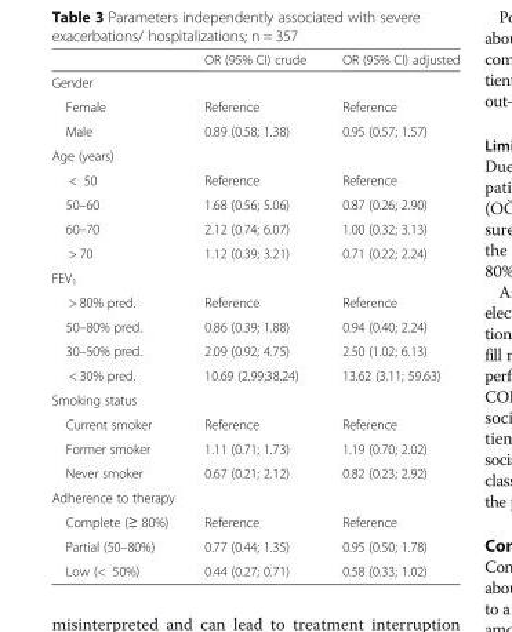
<table><thead><tr><td></td><td>OR (95% CI) crude</td><td>OR (95% CI) adjusted</td></tr></thead><tbody><tr><td colspan="3">Gender</td></tr><tr><td>Female</td><td>Reference</td><td>Reference</td></tr><tr><td>Male</td><td>0.89 (0.58; 1.38)</td><td>0.95 (0.57; 1.57)</td></tr><tr><td colspan="3">Age (years)</td></tr><tr><td>&lt; 50</td><td>Reference</td><td>Reference</td></tr><tr><td>50–60</td><td>1.68 (0.56; 5.06)</td><td>0.87 (0.26; 2.90)</td></tr><tr><td>60–70</td><td>2.12 (0.74; 6.07)</td><td>1.00 (0.32; 3.13)</td></tr><tr><td>&gt; 70</td><td>1.12 (0.39; 3.21)</td><td>0.71 (0.22; 2.24)</td></tr><tr><td colspan="3">FEV<sub>1</sub></td></tr><tr><td>&gt; 80% pred.</td><td>Reference</td><td>Reference</td></tr><tr><td>50–80% pred.</td><td>0.86 (0.39; 1.88)</td><td>0.94 (0.40; 2.24)</td></tr><tr><td>30–50% pred.</td><td>2.09 (0.92; 4.75)</td><td>2.50 (1.02; 6.13)</td></tr><tr><td>&lt; 30% pred.</td><td>10.69 (2.99;38.24)</td><td>13.62 (3.11; 59.63)</td></tr><tr><td colspan="3">Smoking status</td></tr><tr><td>Current smoker</td><td>Reference</td><td>Reference</td></tr><tr><td>Former smoker</td><td>1.11 (0.71; 1.73)</td><td>1.19 (0.70; 2.02)</td></tr><tr><td>Never smoker</td><td>0.67 (0.21; 2.12)</td><td>0.82 (0.23; 2.92)</td></tr><tr><td colspan="3">Adherence to therapy</td></tr><tr><td>Complete (≥ 80%)</td><td>Reference</td><td>Reference</td></tr><tr><td>Partial (50–80%)</td><td>0.77 (0.44; 1.35)</td><td>0.95 (0.50; 1.78)</td></tr><tr><td>Low (&lt; 50%)</td><td>0.44 (0.27; 0.71)</td><td>0.58 (0.33; 1.02)</td></tr></tbody></table>